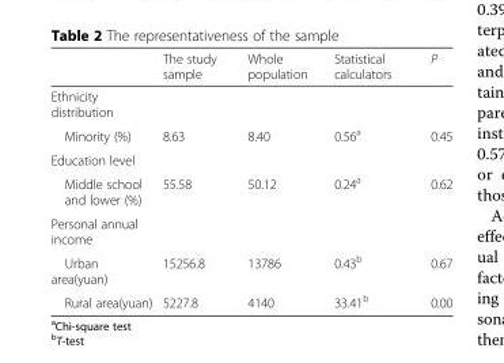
<table><thead><tr><td></td><td>The study sample</td><td>Whole population</td><td>Statistical calculators</td><td>P</td></tr></thead><tbody><tr><td colspan="5">Ethnicity distribution</td></tr><tr><td>Minority (%)</td><td>8.63</td><td>8.40</td><td>0.56<sup>a</sup></td><td>0.45</td></tr><tr><td colspan="5">Education level</td></tr><tr><td>Middle school and lower (%)</td><td>55.58</td><td>50.12</td><td>0.24<sup>a</sup></td><td>0.62</td></tr><tr><td colspan="5">Personal annual income</td></tr><tr><td>Urban area(yuan)</td><td>15256.8</td><td>13786</td><td>0.43<sup>b</sup></td><td>0.67</td></tr><tr><td>Rural area(yuan)</td><td>5227.8</td><td>4140</td><td>33.41<sup>b</sup></td><td>0.00</td></tr></tbody></table>